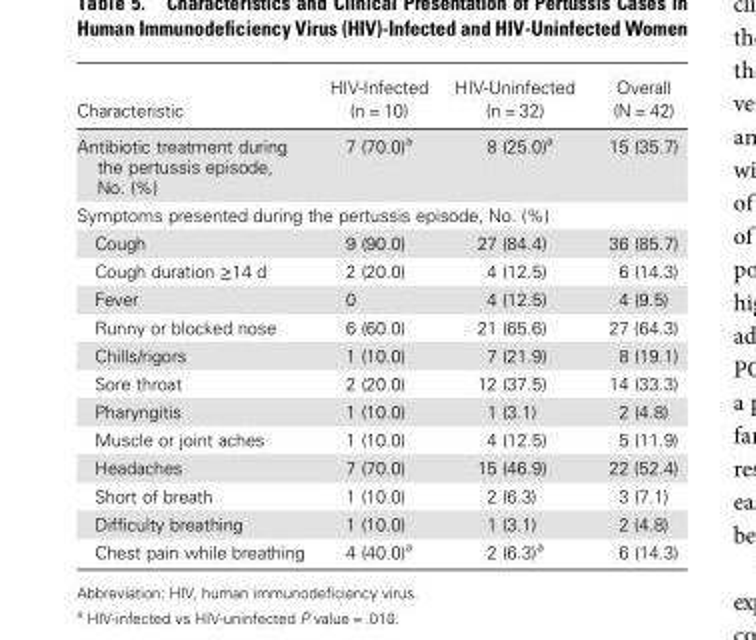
<table><thead><tr><td>Characteristic</td><td>HIV-Infected (n = 10)</td><td>HIV-Uninfected (n = 32)</td><td>Overall (N = 42)</td></tr></thead><tbody><tr><td>Antibiotic treatment during the pertussis episode, No. (%)</td><td>7 (70.0)<sup>a</sup></td><td>8 (25.0)<sup>a</sup></td><td>15 (35.7)</td></tr><tr><td colspan="4">Symptoms presented during the pertussis episode, No. (%)</td></tr><tr><td>Cough</td><td>9 (90.0)</td><td>27 (84.4)</td><td>36 (85.7)</td></tr><tr><td>Cough duration ≥14 d</td><td>2 (20.0)</td><td>4 (12.5)</td><td>6 (14.3)</td></tr><tr><td>Fever</td><td>0</td><td>4 (12.5)</td><td>4 (9.5)</td></tr><tr><td>Runny or blocked nose</td><td>6 (60.0)</td><td>21 (65.6)</td><td>27 (64.3)</td></tr><tr><td>Chills/rigors</td><td>1 (10.0)</td><td>7 (21.9)</td><td>8 (19.1)</td></tr><tr><td>Sore throat</td><td>2 (20.0)</td><td>12 (37.5)</td><td>14 (33.3)</td></tr><tr><td>Pharyngitis</td><td>1 (10.0)</td><td>1 (3.1)</td><td>2 (4.8)</td></tr><tr><td>Muscle or joint aches</td><td>1 (10.0)</td><td>4 (12.5)</td><td>5 (11.9)</td></tr><tr><td>Headaches</td><td>7 (70.0)</td><td>15 (46.9)</td><td>22 (52.4)</td></tr><tr><td>Short of breath</td><td>1 (10.0)</td><td>2 (6.3)</td><td>3 (7.1)</td></tr><tr><td>Difficulty breathing</td><td>1 (10.0)</td><td>1 (3.1)</td><td>2 (4.8)</td></tr><tr><td>Chest pain while breathing</td><td>4 (40.0)<sup>a</sup></td><td>2 (6.3)<sup>a</sup></td><td>6 (14.3)</td></tr></tbody></table>